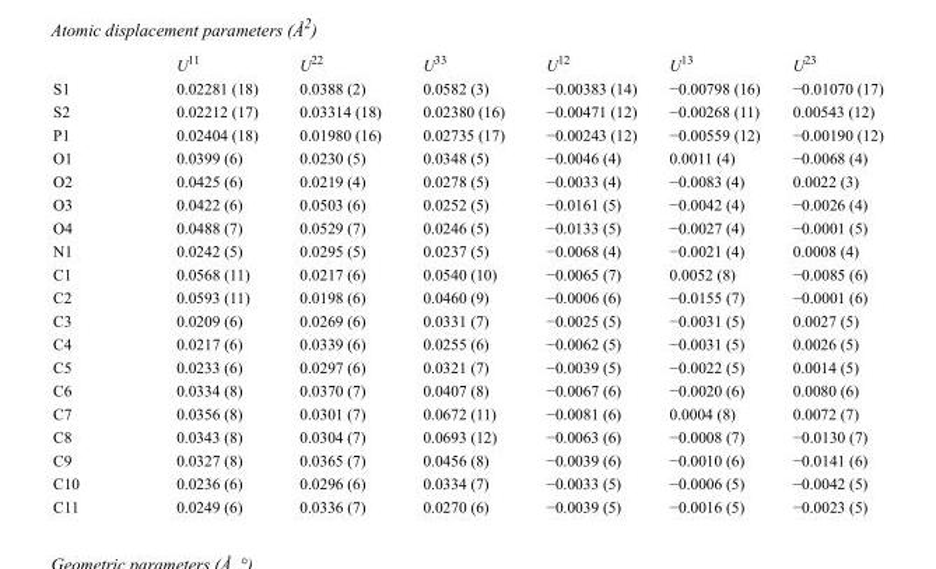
<table><thead><tr><td></td><td>U<sup>11</sup></td><td>U<sup>22</sup></td><td>U<sup>33</sup></td><td>U<sup>12</sup></td><td>U<sup>13</sup></td><td>U<sup>23</sup></td></tr></thead><tbody><tr><td>S1</td><td>0.02281 (18)</td><td>0.0388 (2)</td><td>0.0582 (3)</td><td>−0.00383 (14)</td><td>−0.00798 (16)</td><td>−0.01070 (17)</td></tr><tr><td>S2</td><td>0.02212 (17)</td><td>0.03314 (18)</td><td>0.02380 (16)</td><td>−0.00471 (12)</td><td>−0.00268 (11)</td><td>0.00543 (12)</td></tr><tr><td>P1</td><td>0.02404 (18)</td><td>0.01980 (16)</td><td>0.02735 (17)</td><td>−0.00243 (12)</td><td>−0.00559 (12)</td><td>−0.00190 (12)</td></tr><tr><td>O1</td><td>0.0399 (6)</td><td>0.0230 (5)</td><td>0.0348 (5)</td><td>−0.0046 (4)</td><td>0.0011 (4)</td><td>−0.0068 (4)</td></tr><tr><td>O2</td><td>0.0425 (6)</td><td>0.0219 (4)</td><td>0.0278 (5)</td><td>−0.0033 (4)</td><td>−0.0083 (4)</td><td>0.0022 (3)</td></tr><tr><td>O3</td><td>0.0422 (6)</td><td>0.0503 (6)</td><td>0.0252 (5)</td><td>−0.0161 (5)</td><td>−0.0042 (4)</td><td>−0.0026 (4)</td></tr><tr><td>O4</td><td>0.0488 (7)</td><td>0.0529 (7)</td><td>0.0246 (5)</td><td>−0.0133 (5)</td><td>−0.0027 (4)</td><td>−0.0001 (5)</td></tr><tr><td>N1</td><td>0.0242 (5)</td><td>0.0295 (5)</td><td>0.0237 (5)</td><td>−0.0068 (4)</td><td>−0.0021 (4)</td><td>0.0008 (4)</td></tr><tr><td>C1</td><td>0.0568 (11)</td><td>0.0217 (6)</td><td>0.0540 (10)</td><td>−0.0065 (7)</td><td>0.0052 (8)</td><td>−0.0085 (6)</td></tr><tr><td>C2</td><td>0.0593 (11)</td><td>0.0198 (6)</td><td>0.0460 (9)</td><td>−0.0006 (6)</td><td>−0.0155 (7)</td><td>−0.0001 (6)</td></tr><tr><td>C3</td><td>0.0209 (6)</td><td>0.0269 (6)</td><td>0.0331 (7)</td><td>−0.0025 (5)</td><td>−0.0031 (5)</td><td>0.0027 (5)</td></tr><tr><td>C4</td><td>0.0217 (6)</td><td>0.0339 (6)</td><td>0.0255 (6)</td><td>−0.0062 (5)</td><td>−0.0031 (5)</td><td>0.0026 (5)</td></tr><tr><td>C5</td><td>0.0233 (6)</td><td>0.0297 (6)</td><td>0.0321 (7)</td><td>−0.0039 (5)</td><td>−0.0022 (5)</td><td>0.0014 (5)</td></tr><tr><td>C6</td><td>0.0334 (8)</td><td>0.0370 (7)</td><td>0.0407 (8)</td><td>−0.0067 (6)</td><td>−0.0020 (6)</td><td>0.0080 (6)</td></tr><tr><td>C7</td><td>0.0356 (8)</td><td>0.0301 (7)</td><td>0.0672 (11)</td><td>−0.0081 (6)</td><td>0.0004 (8)</td><td>0.0072 (7)</td></tr><tr><td>C8</td><td>0.0343 (8)</td><td>0.0304 (7)</td><td>0.0693 (12)</td><td>−0.0063 (6)</td><td>−0.0008 (7)</td><td>−0.0130 (7)</td></tr><tr><td>C9</td><td>0.0327 (8)</td><td>0.0365 (7)</td><td>0.0456 (8)</td><td>−0.0039 (6)</td><td>−0.0010 (6)</td><td>−0.0141 (6)</td></tr><tr><td>C10</td><td>0.0236 (6)</td><td>0.0296 (6)</td><td>0.0334 (7)</td><td>−0.0033 (5)</td><td>−0.0006 (5)</td><td>−0.0042 (5)</td></tr><tr><td>C11</td><td>0.0249 (6)</td><td>0.0336 (7)</td><td>0.0270 (6)</td><td>−0.0039 (5)</td><td>−0.0016 (5)</td><td>−0.0023 (5)</td></tr></tbody></table>